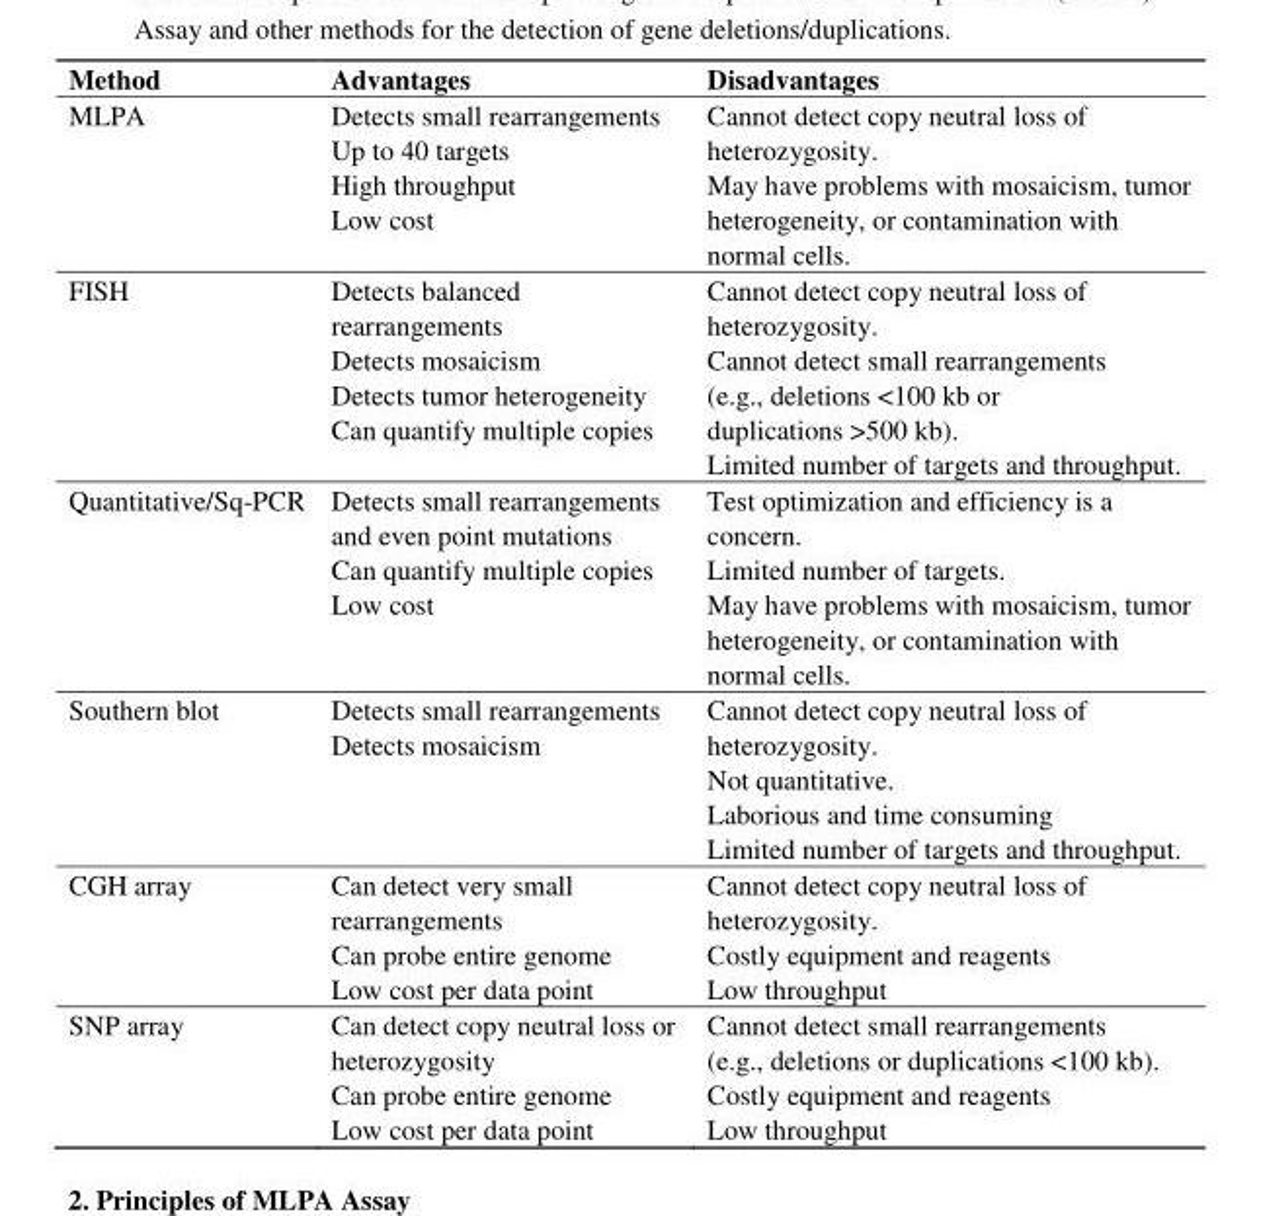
<table><thead><tr><td>Method</td><td>Advantages</td><td>Disadvantages</td></tr></thead><tbody><tr><td>MLPA</td><td>Detects small rearrangements Up to 40 targets High throughput Low cost</td><td>Cannot detect copy neutral loss of heterozygosity. May have problems with mosaicism, tumor heterogeneity, or contamination with normal cells.</td></tr><tr><td>FISH</td><td>Detects balanced rearrangements Detects mosaicism Detects tumor heterogeneity Can quantify multiple copies</td><td>Cannot detect copy neutral loss of heterozygosity. Cannot detect small rearrangements (e.g., deletions &lt;100 kb or duplications &gt;500 kb). Limited number of targets and throughput.</td></tr><tr><td>Quantitative/Sq-PCR</td><td>Detects small rearrangements and even point mutations Can quantify multiple copies Low cost</td><td>Test optimization and efficiency is a concern. Limited number of targets. May have problems with mosaicism, tumor heterogeneity, or contamination with normal cells.</td></tr><tr><td>Southern blot</td><td>Detects small rearrangements Detects mosaicism</td><td>Cannot detect copy neutral loss of heterozygosity. Not quantitative. Laborious and time consuming Limited number of targets and throughput.</td></tr><tr><td>CGH array</td><td>Can detect very small rearrangements Can probe entire genome Low cost per data point</td><td>Cannot detect copy neutral loss of heterozygosity. Costly equipment and reagents Low throughput</td></tr><tr><td>SNP array</td><td>Can detect copy neutral loss or heterozygosity Can probe entire genome Low cost per data point</td><td>Cannot detect small rearrangements (e.g., deletions or duplications &lt;100 kb). Costly equipment and reagents Low throughput</td></tr></tbody></table>